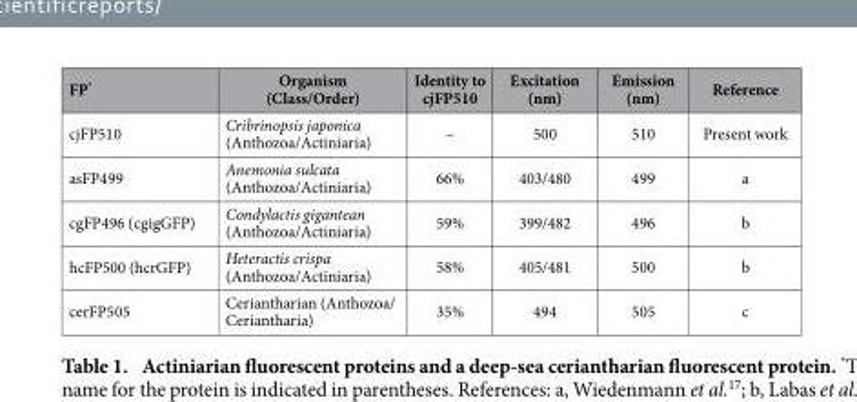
<table><thead><tr><td>FP*</td><td>Organism (Class/Order)</td><td>Identity to cjFP510</td><td>Excitation (nm)</td><td>Emission (nm)</td><td>Reference</td></tr></thead><tbody><tr><td>cjFP510</td><td>Cribrinopsis japonica (Anthozoa/Actiniaria)</td><td>–</td><td>500</td><td>510</td><td>Present work</td></tr><tr><td>asFP499</td><td>Anemonia sulcata (Anthozoa/Actiniaria)</td><td>66%</td><td>403/480</td><td>499</td><td>a</td></tr><tr><td>cgFP496 (cgigGFP)</td><td>Condylactis gigantean (Anthozoa/Actiniaria)</td><td>59%</td><td>399/482</td><td>496</td><td>b</td></tr><tr><td>hcFP500 (hcrGFP)</td><td>Heteractis crispa (Anthozoa/Actiniaria)</td><td>58%</td><td>405/481</td><td>500</td><td>b</td></tr><tr><td>cerFP505</td><td>Ceriantharian (Anthozoa/ Ceriantharia)</td><td>35%</td><td>494</td><td>505</td><td>c</td></tr></tbody></table>